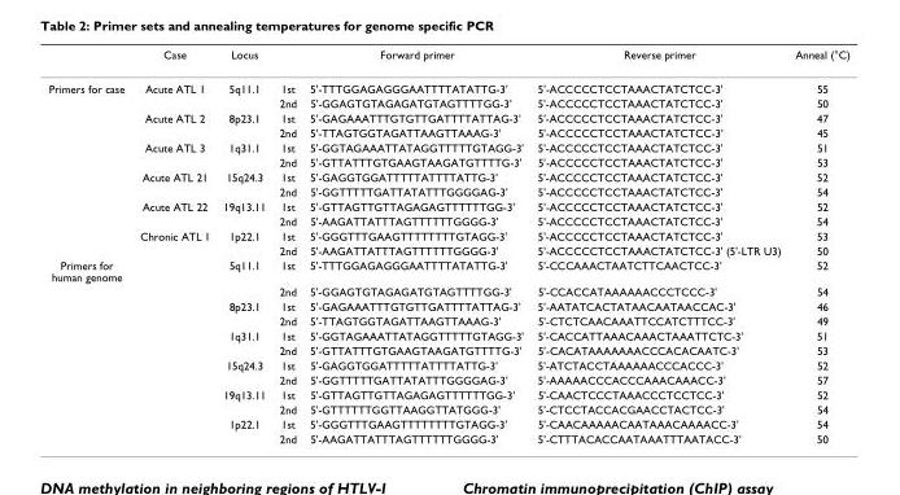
<table><thead><tr><td></td><td>Case</td><td>Locus</td><td></td><td>Forward primer</td><td>Reverse primer</td><td>Anneal (°C)</td></tr></thead><tbody><tr><td rowspan="12">Primers for case</td><td>Acute ATL 1</td><td>5q11.1</td><td>1st</td><td>5&#x27;-TTTGGAGAGGGAATTTTATATTG-3&#x27;</td><td>5&#x27;-ACCCCCTCCTAAACTATCTCC-3&#x27;</td><td>55</td></tr><tr><td></td><td></td><td>2nd</td><td>5&#x27;-GGAGTGTAGAGATGTAGTTTTGG-3&#x27;</td><td>5&#x27;-ACCCCCTCCTAAACTATCTCC-3&#x27;</td><td>50</td></tr><tr><td>Acute ATL 2</td><td>8p23.1</td><td>1st</td><td>5&#x27;-GAGAAATTTGTGTTGATTTTATTAG-3&#x27;</td><td>5&#x27;-ACCCCCTCCTAAACTATCTCC-3&#x27;</td><td>47</td></tr><tr><td></td><td></td><td>2nd</td><td>5&#x27;-TTAGTGGTAGATTAAGTTAAAG-3&#x27;</td><td>5&#x27;-ACCCCCTCCTAAACTATCTCC-3&#x27;</td><td>45</td></tr><tr><td>Acute ATL 3</td><td>1q31.1</td><td>1st</td><td>5&#x27;-GGTAGAAATTATAGGTTTTTGTAGG-3&#x27;</td><td>5&#x27;-ACCCCCTCCTAAACTATCTCC-3&#x27;</td><td>51</td></tr><tr><td></td><td></td><td>2nd</td><td>5&#x27;-GTTATTTGTGAAGTAAGATGTTTTG-3&#x27;</td><td>5&#x27;-ACCCCCTCCTAAACTATCTCC-3&#x27;</td><td>53</td></tr><tr><td>Acute ATL 21</td><td>15q24.3</td><td>1st</td><td>5&#x27;-GAGGTGGATTTTTATTTTATTG-3&#x27;</td><td>5&#x27;-ACCCCCTCCTAAACTATCTCC-3&#x27;</td><td>52</td></tr><tr><td></td><td></td><td>2nd</td><td>5&#x27;-GGTTTTTGATTATATTTGGGGAG-3&#x27;</td><td>5&#x27;-ACCCCCTCCTAAACTATCTCC-3&#x27;</td><td>54</td></tr><tr><td>Acute ATL 22</td><td>19q13.11</td><td>1st</td><td>5&#x27;-GTTAGTTGTTAGAGAGTTTTTTGG-3&#x27;</td><td>5&#x27;-ACCCCCTCCTAAACTATCTCC-3&#x27;</td><td>52</td></tr><tr><td></td><td></td><td>2nd</td><td>5&#x27;-AAGATTATTTAGTTTTTTGGGG-3&#x27;</td><td>5&#x27;-ACCCCCTCCTAAACTATCTCC-3&#x27;</td><td>54</td></tr><tr><td>Chronic ATL 1</td><td>1p22.1</td><td>1st</td><td>5&#x27;-GGGTTTGAAGTTTTTTTTGTAGG-3&#x27;</td><td>5&#x27;-ACCCCCTCCTAAACTATCTCC-3&#x27;</td><td>53</td></tr><tr><td></td><td></td><td>2nd</td><td>5&#x27;-AAGATTATTTAGTTTTTTGGGG-3&#x27;</td><td>5&#x27;-ACCCCCTCCTAAACTATCTCC-3&#x27; (5&#x27;-LTR U3)</td><td>50</td></tr><tr><td rowspan="12">Primers for human genome</td><td></td><td>5q11.1</td><td>1st</td><td>5&#x27;-TTTGGAGAGGGAATTTTATATTG-3&#x27;</td><td>5&#x27;-CCCAAACTAATCTTCAACTCC-3&#x27;</td><td>52</td></tr><tr><td></td><td></td><td>2nd</td><td>5&#x27;-GGAGTGTAGAGATGTAGTTTTGG-3&#x27;</td><td>5&#x27;-CCACCATAAAAAACCCTCCC-3&#x27;</td><td>54</td></tr><tr><td></td><td>8p23.1</td><td>1st</td><td>5&#x27;-GAGAAATTTGTGTTGATTTTATTAG-3&#x27;</td><td>5&#x27;-AATATCACTATAACAATAACCAC-3&#x27;</td><td>46</td></tr><tr><td></td><td></td><td>2nd</td><td>5&#x27;-TTAGTGGTAGATTAAGTTAAAG-3&#x27;</td><td>5&#x27;-CTCTCAACAAATTCCATCTTTCC-3&#x27;</td><td>49</td></tr><tr><td></td><td>1q31.1</td><td>1st</td><td>5&#x27;-GGTAGAAATTATAGGTTTTTGTAGG-3&#x27;</td><td>5&#x27;-CACCATTAAACAAACTAAATTCTC-3&#x27;</td><td>51</td></tr><tr><td></td><td></td><td>2nd</td><td>5&#x27;-GTTATTTGTGAAGTAAGATGTTTTG-3&#x27;</td><td>5&#x27;-CACATAAAAAAACCCACACAATC-3&#x27;</td><td>53</td></tr><tr><td></td><td>15q24.3</td><td>1st</td><td>5&#x27;-GAGGTGGATTTTTATTTTATTG-3&#x27;</td><td>5&#x27;-ATCTACCTAAAAAACCCACCC-3&#x27;</td><td>52</td></tr><tr><td></td><td></td><td>2nd</td><td>5&#x27;-GGTTTTTGATTATATTTGGGGAG-3&#x27;</td><td>5&#x27;-AAAAACCCACCCAAACAAACC-3&#x27;</td><td>57</td></tr><tr><td></td><td>19q13.11</td><td>1st</td><td>5&#x27;-GTTAGTTGTTAGAGAGTTTTTTGG-3&#x27;</td><td>5&#x27;-CAACTCCCTAAACCCTCCTCC-3&#x27;</td><td>52</td></tr><tr><td></td><td></td><td>2nd</td><td>5&#x27;-GTTTTTTGGTTAAGGTTATGGG-3&#x27;</td><td>5&#x27;-CTCCTACCACGAACCTACTCC-3&#x27;</td><td>54</td></tr><tr><td></td><td>1p22.1</td><td>1st</td><td>5&#x27;-GGGTTTGAAGTTTTTTTTGTAGG-3&#x27;</td><td>5&#x27;-CAACAAAAACAATAAACAAAACC-3&#x27;</td><td>54</td></tr><tr><td></td><td></td><td>2nd</td><td>5&#x27;-AAGATTATTTAGTTTTTTGGGG-3&#x27;</td><td>5&#x27;-CTTTACACCAATAAATTTAATACC-3&#x27;</td><td>50</td></tr></tbody></table>